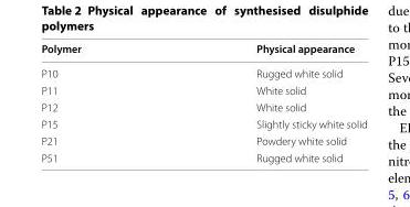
<table><thead><tr><td>Polymer</td><td>Physical appearance</td></tr></thead><tbody><tr><td>P10</td><td>Rugged white solid</td></tr><tr><td>P11</td><td>White solid</td></tr><tr><td>P12</td><td>White solid</td></tr><tr><td>P15</td><td>Slightly sticky white solid</td></tr><tr><td>P21</td><td>Powdery white solid</td></tr><tr><td>P51</td><td>Rugged white solid</td></tr></tbody></table>